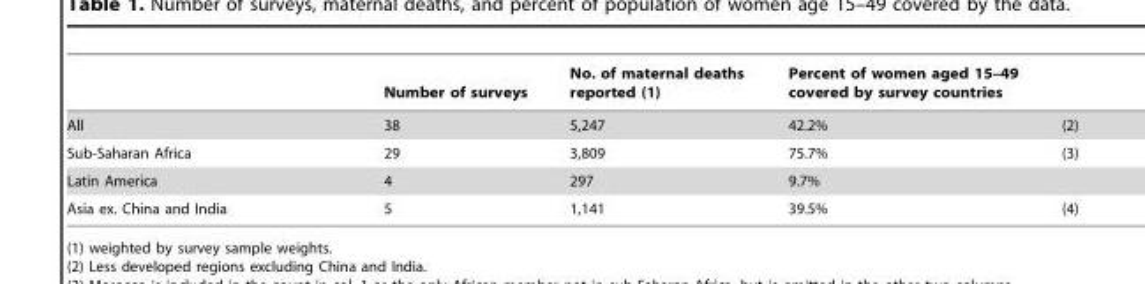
<table><thead><tr><td></td><td>Number of surveys</td><td>No. of maternal deaths reported (1)</td><td>Percent of women aged 15–49 covered by survey countries</td><td></td></tr></thead><tbody><tr><td>All</td><td>38</td><td>5,247</td><td>42.2%</td><td>(2)</td></tr><tr><td>Sub-Saharan Africa</td><td>29</td><td>3,809</td><td>75.7%</td><td>(3)</td></tr><tr><td>Latin America</td><td>4</td><td>297</td><td>9.7%</td><td></td></tr><tr><td>Asia ex. China and India</td><td>5</td><td>1,141</td><td>39.5%</td><td>(4)</td></tr></tbody></table>